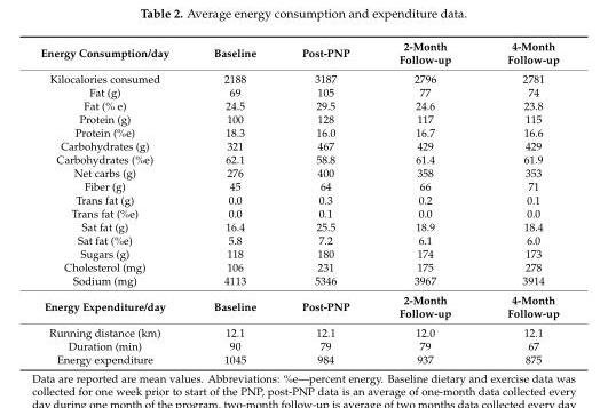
<table><tbody><tr><td>Energy Consumption/day</td><td>Baseline</td><td>Post-PNP</td><td>2-Month Follow-up</td><td>4-Month Follow-up</td></tr><tr><td>Kilocalories consumed</td><td>2188</td><td>3187</td><td>2796</td><td>2781</td></tr><tr><td>Fat (g)</td><td>69</td><td>105</td><td>77</td><td>74</td></tr><tr><td>Fat (% e)</td><td>24.5</td><td>29.5</td><td>24.6</td><td>23.8</td></tr><tr><td>Protein (g)</td><td>100</td><td>128</td><td>117</td><td>115</td></tr><tr><td>Protein (%e)</td><td>18.3</td><td>16.0</td><td>16.7</td><td>16.6</td></tr><tr><td>Carbohydrates (g)</td><td>321</td><td>467</td><td>429</td><td>429</td></tr><tr><td>Carbohydrates (%e)</td><td>62.1</td><td>58.8</td><td>61.4</td><td>61.9</td></tr><tr><td>Net carbs (g)</td><td>276</td><td>400</td><td>358</td><td>353</td></tr><tr><td>Fiber (g)</td><td>45</td><td>64</td><td>66</td><td>71</td></tr><tr><td>Trans fat (g)</td><td>0.0</td><td>0.3</td><td>0.2</td><td>0.1</td></tr><tr><td>Trans fat (%e)</td><td>0.0</td><td>0.1</td><td>0.0</td><td>0.0</td></tr><tr><td>Sat fat (g)</td><td>16.4</td><td>25.5</td><td>18.9</td><td>18.4</td></tr><tr><td>Sat fat (%e)</td><td>5.8</td><td>7.2</td><td>6.1</td><td>6.0</td></tr><tr><td>Sugars (g)</td><td>118</td><td>180</td><td>174</td><td>173</td></tr><tr><td>Cholesterol (mg)</td><td>106</td><td>231</td><td>175</td><td>278</td></tr><tr><td>Sodium (mg)</td><td>4113</td><td>5346</td><td>3967</td><td>3914</td></tr><tr><td>Energy Expenditure/day</td><td>Baseline</td><td>Post-PNP</td><td>2-Month Follow-up</td><td>4-Month Follow-up</td></tr><tr><td>Running distance (km)</td><td>12.1</td><td>12.1</td><td>12.0</td><td>12.1</td></tr><tr><td>Duration (min)</td><td>90</td><td>79</td><td>79</td><td>67</td></tr><tr><td>Energy expenditure</td><td>1045</td><td>984</td><td>937</td><td>875</td></tr></tbody></table>